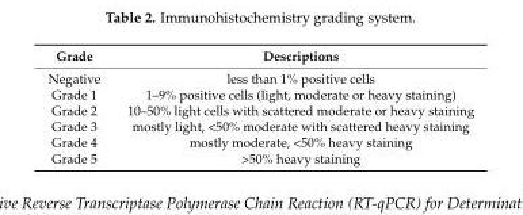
<table><thead><tr><td>Grade</td><td>Descriptions</td></tr></thead><tbody><tr><td>Negative</td><td>less than 1% positive cells</td></tr><tr><td>Grade 1</td><td>1–9% positive cells (light, moderate or heavy staining)</td></tr><tr><td>Grade 2</td><td>10–50% light cells with scattered moderate or heavy staining</td></tr><tr><td>Grade 3</td><td>mostly light, &lt;50% moderate with scattered heavy staining</td></tr><tr><td>Grade 4 Grade 5</td><td>mostly moderate, &lt;50% heavy staining &gt;50% heavy staining</td></tr></tbody></table>